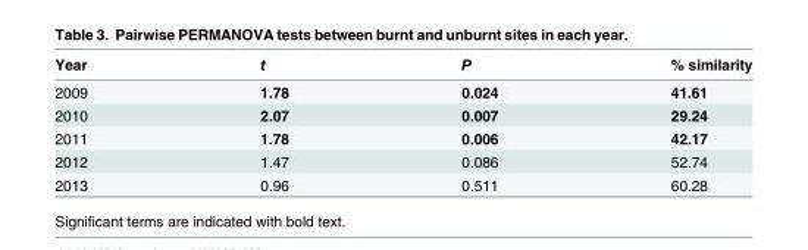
<table><thead><tr><td>Year</td><td>t</td><td>P</td><td>% similarity</td></tr></thead><tbody><tr><td>2009</td><td>1.78</td><td>0.024</td><td>41.61</td></tr><tr><td>2010</td><td>2.07</td><td>0.007</td><td>29.24</td></tr><tr><td>2011</td><td>1.78</td><td>0.006</td><td>42.17</td></tr><tr><td>2012</td><td>1.47</td><td>0.086</td><td>52.74</td></tr><tr><td>2013</td><td>0.96</td><td>0.511</td><td>60.28</td></tr></tbody></table>